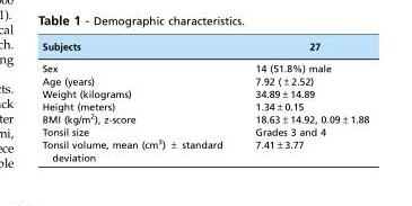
<table><thead><tr><td>Subjects</td><td>27</td></tr></thead><tbody><tr><td>Sex</td><td>14 (51.8%) male</td></tr><tr><td>Age (years)</td><td>7.92 (±2.52)</td></tr><tr><td>Weight (kilograms)</td><td>34.89±14.89</td></tr><tr><td>Height (meters)</td><td>1.34±0.15</td></tr><tr><td>BMI (kg/m<sup>2</sup>), z-score</td><td>18.63±14.92, 0.09±1.88</td></tr><tr><td>Tonsil size</td><td>Grades 3 and 4</td></tr><tr><td>Tonsil volume, mean (cm<sup>3</sup>) ± standard deviation</td><td>7.41±3.77</td></tr></tbody></table>